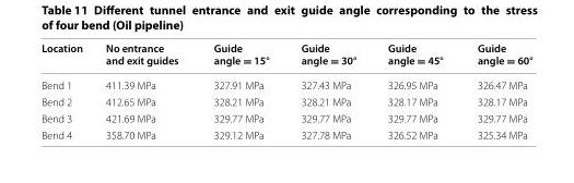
<table><thead><tr><td>Location</td><td>No entrance and exit guides</td><td>Guide angle = 15°</td><td>Guide angle = 30°</td><td>Guide angle = 45°</td><td>Guide angle = 60°</td></tr></thead><tbody><tr><td>Bend 1</td><td>411.39 MPa</td><td>327.91 MPa</td><td>327.43 MPa</td><td>326.95 MPa</td><td>326.47 MPa</td></tr><tr><td>Bend 2</td><td>412.65 MPa</td><td>328.21 MPa</td><td>328.21 MPa</td><td>328.17 MPa</td><td>328.17 MPa</td></tr><tr><td>Bend 3</td><td>421.69 MPa</td><td>329.77 MPa</td><td>329.77 MPa</td><td>329.77 MPa</td><td>329.77 MPa</td></tr><tr><td>Bend 4</td><td>358.70 MPa</td><td>329.12 MPa</td><td>327.78 MPa</td><td>326.52 MPa</td><td>325.34 MPa</td></tr></tbody></table>